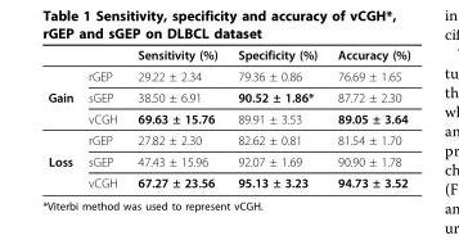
<table><thead><tr><td></td><td></td><td>Sensitivity (%)</td><td>Specificity (%)</td><td>Accuracy (%)</td></tr></thead><tbody><tr><td></td><td>rGEP</td><td>29.22 ± 2.34</td><td>79.36 ± 0.86</td><td>76.69 ± 1.65</td></tr><tr><td rowspan="3">Gain</td><td>sGEP</td><td>38.50 ± 6.91</td><td>90.52 ± 1.86*</td><td>87.72 ± 2.30</td></tr><tr><td>vCGH</td><td>69.63 ± 15.76</td><td>89.91 ± 3.53</td><td>89.05 ± 3.64</td></tr><tr><td>rGEP</td><td>27.82 ± 2.30</td><td>82.62 ± 0.81</td><td>81.54 ± 1.70</td></tr><tr><td rowspan="2">Loss</td><td>sGEP</td><td>47.43 ± 15.96</td><td>92.07 ± 1.69</td><td>90.90 ± 1.78</td></tr><tr><td>vCGH</td><td>67.27 ± 23.56</td><td>95.13 ± 3.23</td><td>94.73 ± 3.52</td></tr></tbody></table>